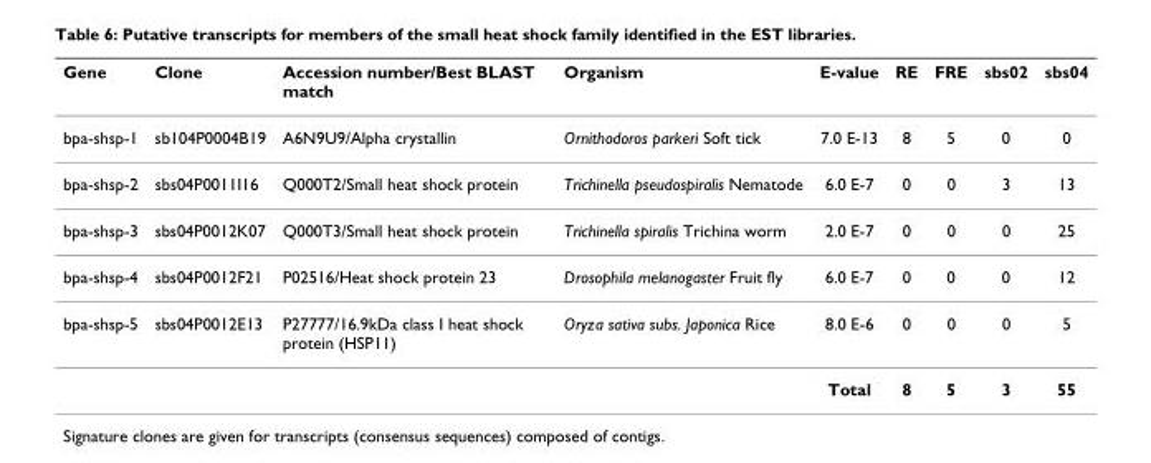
<table><thead><tr><td>Gene</td><td>Clone</td><td>Accession number/Best BLAST match</td><td>Organism</td><td>E-value</td><td>RE</td><td>FRE</td><td>sbs02</td><td>sbs04</td></tr></thead><tbody><tr><td>bpa-shsp-1</td><td>sb104P0004B19</td><td>A6N9U9/Alpha crystallin</td><td>Ornithodoros parkeri Soft tick</td><td>7.0 E-13</td><td>8</td><td>5</td><td>0</td><td>0</td></tr><tr><td>bpa-shsp-2</td><td>sbs04P0011I16</td><td>Q000T2/Small heat shock protein</td><td>Trichinella pseudospiralis Nematode</td><td>6.0 E-7</td><td>0</td><td>0</td><td>3</td><td>13</td></tr><tr><td>bpa-shsp-3</td><td>sbs04P0012K07</td><td>Q000T3/Small heat shock protein</td><td>Trichinella spiralis Trichina worm</td><td>2.0 E-7</td><td>0</td><td>0</td><td>0</td><td>25</td></tr><tr><td>bpa-shsp-4</td><td>sbs04P0012F21</td><td>P02516/Heat shock protein 23</td><td>Drosophila melanogaster Fruit fly</td><td>6.0 E-7</td><td>0</td><td>0</td><td>0</td><td>12</td></tr><tr><td rowspan="2">bpa-shsp-5</td><td>sbs04P0012E13</td><td>P27777/16.9kDa class I heat shock protein (HSP11)</td><td>Oryza sativa subs. Japonica Rice</td><td>8.0 E-6</td><td>0</td><td>0</td><td>0</td><td>5</td></tr><tr><td></td><td></td><td></td><td>Total</td><td>8</td><td>5</td><td>3</td><td>55</td></tr></tbody></table>